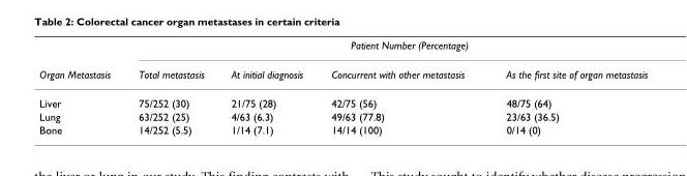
<table><thead><tr><td rowspan="2">Organ Metastasis</td><td colspan="4">Patient Number (Percentage)</td></tr><tr><td>Total metastasis</td><td>At initial diagnosis</td><td>Concurrent with other metastasis</td><td>As the first site of organ metastasis</td></tr></thead><tbody><tr><td>Liver</td><td>75/252 (30)</td><td>21/75 (28)</td><td>42/75 (56)</td><td>48/75 (64)</td></tr><tr><td>Lung</td><td>63/252 (25)</td><td>4/63 (6.3)</td><td>49/63 (77.8)</td><td>23/63 (36.5)</td></tr><tr><td>Bone</td><td>14/252 (5.5)</td><td>1/14 (7.1)</td><td>14/14 (100)</td><td>0/14 (0)</td></tr></tbody></table>